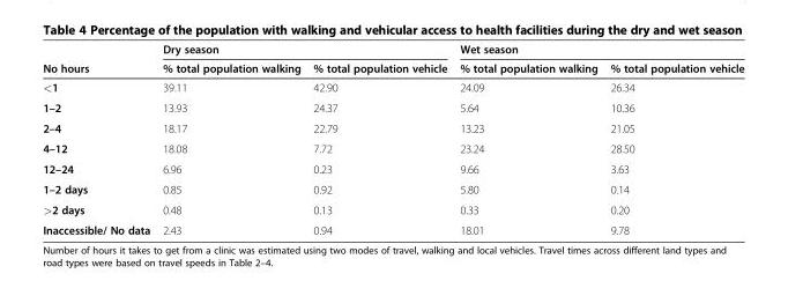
<table><thead><tr><td rowspan="2">No hours</td><td colspan="2">Dry season</td><td colspan="2">Wet season</td></tr><tr><td>% total population walking</td><td>% total population vehicle</td><td>% total population walking</td><td>% total population vehicle</td></tr></thead><tbody><tr><td>&lt;1</td><td>39.11</td><td>42.90</td><td>24.09</td><td>26.34</td></tr><tr><td>1–2</td><td>13.93</td><td>24.37</td><td>5.64</td><td>10.36</td></tr><tr><td>2–4</td><td>18.17</td><td>22.79</td><td>13.23</td><td>21.05</td></tr><tr><td>4–12</td><td>18.08</td><td>7.72</td><td>23.24</td><td>28.50</td></tr><tr><td>12–24</td><td>6.96</td><td>0.23</td><td>9.66</td><td>3.63</td></tr><tr><td>1–2 days</td><td>0.85</td><td>0.92</td><td>5.80</td><td>0.14</td></tr><tr><td>&gt;2 days</td><td>0.48</td><td>0.13</td><td>0.33</td><td>0.20</td></tr><tr><td>Inaccessible/ No data</td><td>2.43</td><td>0.94</td><td>18.01</td><td>9.78</td></tr></tbody></table>